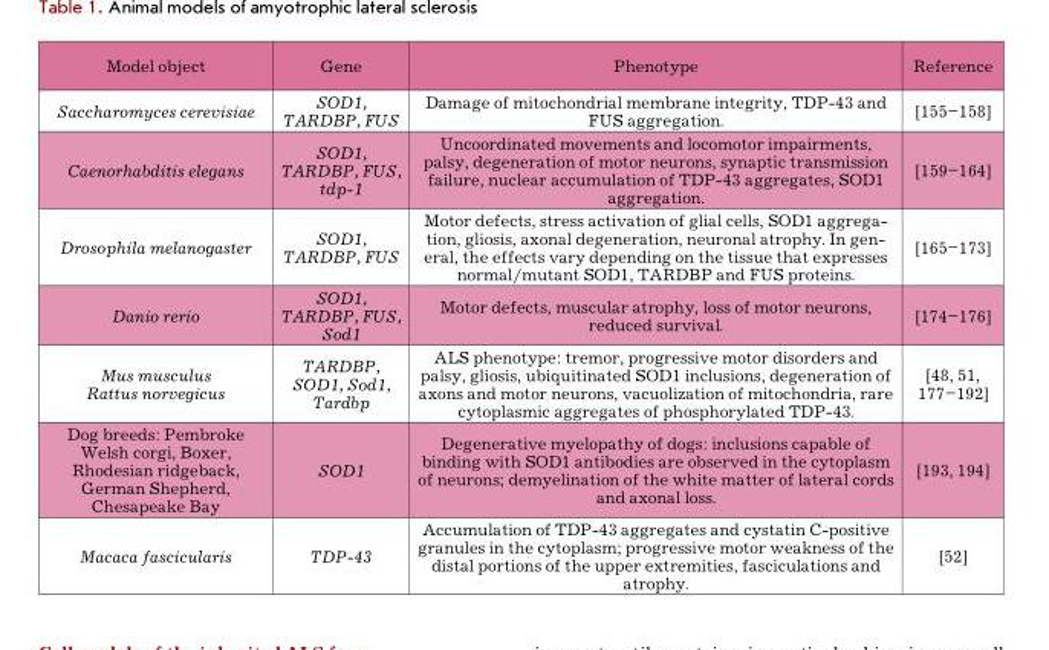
<table><thead><tr><td>Model object</td><td>Gene</td><td>Phenotype</td><td>Reference</td></tr></thead><tbody><tr><td>Saccharomyces cerevisiae</td><td>SOD1, TARDBP, FUS</td><td>Damage of mitochondrial membrane integrity, TDP-43 and FUS aggregation.</td><td>[155–158]</td></tr><tr><td>Caenorhabditis elegans</td><td>SOD1, TARDBP, FUS, tdp-1</td><td>Uncoordinated movements and locomotor impairments, palsy, degeneration of motor neurons, synaptic transmission failure, nuclear accumulation of TDP-43 aggregates, SOD1 aggregation.</td><td>[159–164]</td></tr><tr><td>Drosophila melanogaster</td><td>SOD1, TARDBP, FUS</td><td>Motor defects, stress activation of glial cells, SOD1 aggrega- tion, gliosis, axonal degeneration, neuronal atrophy. In gen- eral, the effects vary depending on the tissue that expresses normal/mutant SOD1, TARDBP and FUS proteins.</td><td>[165–173]</td></tr><tr><td>Danio rerio</td><td>SOD1, TARDBP, FUS, Sod1</td><td>Motor defects, muscular atrophy, loss of motor neurons, reduced survival.</td><td>[174–176]</td></tr><tr><td>Mus musculus Rattus norvegicus</td><td>TARDBP, SOD1, Sod1, Tardbp</td><td>ALS phenotype: tremor, progressive motor disorders and palsy, gliosis, ubiquitinated SOD1 inclusions, degeneration of axons and motor neurons, vacuolization of mitochondria, rare cytoplasmic aggregates of phosphorylated TDP-43.</td><td>[48, 51, 177–192]</td></tr><tr><td>Dog breeds: Pembroke Welsh corgi, Boxer, Rhodesian ridgeback, German Shepherd, Chesapeake Bay</td><td>SOD1</td><td>Degenerative myelopathy of dogs: inclusions capable of binding with SOD1 antibodies are observed in the cytoplasm of neurons; demyelination of the white matter of lateral cords and axonal loss.</td><td>[193, 194]</td></tr><tr><td>Macaca fascicularis</td><td>TDP-43</td><td>Accumulation of TDP-43 aggregates and cystatin C-positive granules in the cytoplasm; progressive motor weakness of the distal portions of the upper extremities, fasciculations and atrophy.</td><td>[52]</td></tr></tbody></table>